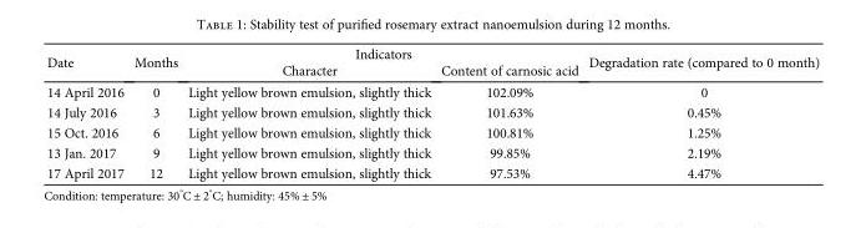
<table><thead><tr><td rowspan="2">Date</td><td rowspan="2">Months</td><td colspan="2">Indicators</td><td rowspan="2">Degradation rate (compared to 0 month)</td></tr><tr><td>Character</td><td>Content of carnosic acid</td></tr></thead><tbody><tr><td>14 April 2016</td><td>0</td><td>Light yellow brown emulsion, slightly thick</td><td>102.09%</td><td>0</td></tr><tr><td>14 July 2016</td><td>3</td><td>Light yellow brown emulsion, slightly thick</td><td>101.63%</td><td>0.45%</td></tr><tr><td>15 Oct. 2016</td><td>6</td><td>Light yellow brown emulsion, slightly thick</td><td>100.81%</td><td>1.25%</td></tr><tr><td>13 Jan. 2017</td><td>9</td><td>Light yellow brown emulsion, slightly thick</td><td>99.85%</td><td>2.19%</td></tr><tr><td>17 April 2017</td><td>12</td><td>Light yellow brown emulsion, slightly thick</td><td>97.53%</td><td>4.47%</td></tr></tbody></table>